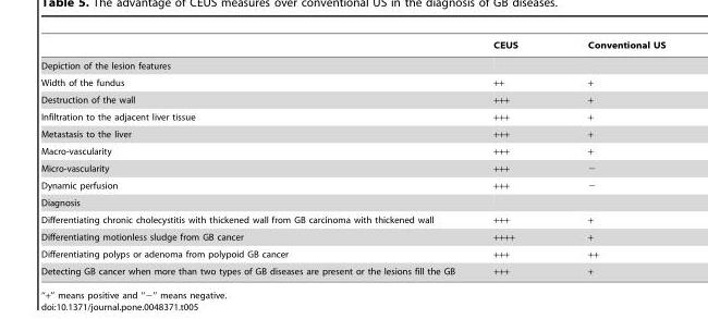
<table><thead><tr><td></td><td>CEUS</td><td>Conventional US</td></tr></thead><tbody><tr><td colspan="3">Depiction of the lesion features</td></tr><tr><td>Width of the fundus</td><td>++</td><td>+</td></tr><tr><td>Destruction of the wall</td><td>+++</td><td>+</td></tr><tr><td>Infiltration to the adjacent liver tissue</td><td>+++</td><td>+</td></tr><tr><td>Metastasis to the liver</td><td>+++</td><td>+</td></tr><tr><td>Macro-vascularity</td><td>+++</td><td>+</td></tr><tr><td>Micro-vascularity</td><td>+++</td><td>−</td></tr><tr><td>Dynamic perfusion</td><td>+++</td><td>−</td></tr><tr><td colspan="3">Diagnosis</td></tr><tr><td>Differentiating chronic cholecystitis with thickened wall from GB carcinoma with thickened wall</td><td>+++</td><td>+</td></tr><tr><td>Differentiating motionless sludge from GB cancer</td><td>++++</td><td>+</td></tr><tr><td>Differentiating polyps or adenoma from polypoid GB cancer</td><td>+++</td><td>++</td></tr><tr><td>Detecting GB cancer when more than two types of GB diseases are present or the lesions fill the GB</td><td>+++</td><td>+</td></tr></tbody></table>